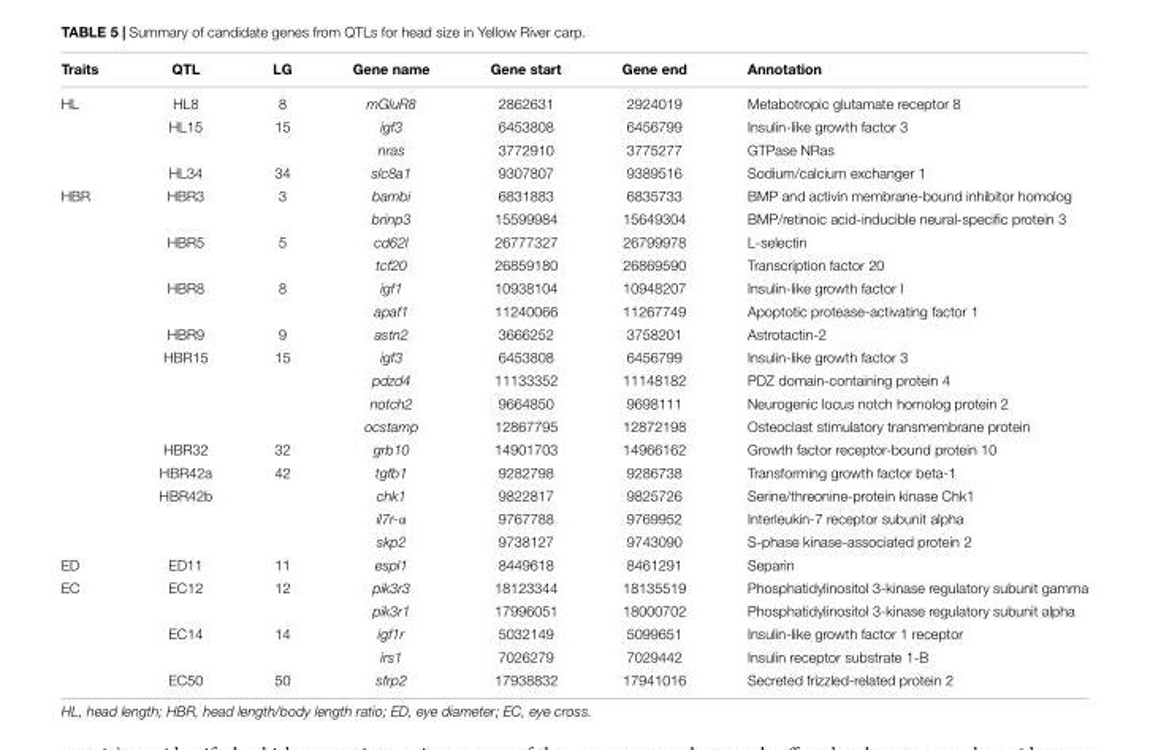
<table><thead><tr><td>Traits</td><td>QTL</td><td>LG</td><td>Gene name</td><td>Gene start</td><td>Gene end</td><td>Annotation</td></tr></thead><tbody><tr><td rowspan="4">HL</td><td>HL8</td><td>8</td><td>mGluR8</td><td>2862631</td><td>2924019</td><td>Metabotropic glutamate receptor 8</td></tr><tr><td>HL15</td><td>15</td><td>igf3</td><td>6453808</td><td>6456799</td><td>Insulin-like growth factor 3</td></tr><tr><td></td><td></td><td>nras</td><td>3772910</td><td>3775277</td><td>GTPase NRas</td></tr><tr><td>HL34</td><td>34</td><td>slc8a1</td><td>9307807</td><td>9389516</td><td>Sodium/calcium exchanger 1</td></tr><tr><td rowspan="16">HBR</td><td>HBR3</td><td>3</td><td>bambi</td><td>6831883</td><td>6835733</td><td>BMP and activin membrane-bound inhibitor homolog</td></tr><tr><td></td><td></td><td>brinp3</td><td>15599984</td><td>15649304</td><td>BMP/retinoic acid-inducible neural-specific protein 3</td></tr><tr><td>HBR5</td><td>5</td><td>cd62l</td><td>26777327</td><td>26799978</td><td>L-selectin</td></tr><tr><td></td><td></td><td>tcf20</td><td>26859180</td><td>26869590</td><td>Transcription factor 20</td></tr><tr><td>HBR8</td><td>8</td><td>igf1</td><td>10938104</td><td>10948207</td><td>Insulin-like growth factor I</td></tr><tr><td></td><td></td><td>apaf1</td><td>11240066</td><td>11267749</td><td>Apoptotic protease-activating factor 1</td></tr><tr><td>HBR9</td><td>9</td><td>astn2</td><td>3666252</td><td>3758201</td><td>Astrotactin-2</td></tr><tr><td>HBR15</td><td>15</td><td>igf3</td><td>6453808</td><td>6456799</td><td>Insulin-like growth factor 3</td></tr><tr><td></td><td></td><td>pdzd4</td><td>11133352</td><td>11148182</td><td>PDZ domain-containing protein 4</td></tr><tr><td></td><td></td><td>notch2</td><td>9664850</td><td>9698111</td><td>Neurogenic locus notch homolog protein 2</td></tr><tr><td></td><td></td><td>ocstamp</td><td>12867795</td><td>12872198</td><td>Osteoclast stimulatory transmembrane protein</td></tr><tr><td>HBR32</td><td>32</td><td>grb10</td><td>14901703</td><td>14966162</td><td>Growth factor receptor-bound protein 10</td></tr><tr><td>HBR42a</td><td>42</td><td>tgfb1</td><td>9282798</td><td>9286738</td><td>Transforming growth factor beta-1</td></tr><tr><td>HBR42b</td><td></td><td>chk1</td><td>9822817</td><td>9825726</td><td>Serine/threonine-protein kinase Chk1</td></tr><tr><td></td><td></td><td>il7r-α</td><td>9767788</td><td>9769952</td><td>Interleukin-7 receptor subunit alpha</td></tr><tr><td></td><td></td><td>skp2</td><td>9738127</td><td>9743090</td><td>S-phase kinase-associated protein 2</td></tr><tr><td>ED</td><td>ED11</td><td>11</td><td>espl1</td><td>8449618</td><td>8461291</td><td>Separin</td></tr><tr><td rowspan="5">EC</td><td>EC12</td><td>12</td><td>pik3r3</td><td>18123344</td><td>18135519</td><td>Phosphatidylinositol 3-kinase regulatory subunit gamma</td></tr><tr><td></td><td></td><td>pik3r1</td><td>17996051</td><td>18000702</td><td>Phosphatidylinositol 3-kinase regulatory subunit alpha</td></tr><tr><td>EC14</td><td>14</td><td>igf1r</td><td>5032149</td><td>5099651</td><td>Insulin-like growth factor 1 receptor</td></tr><tr><td></td><td></td><td>irs1</td><td>7026279</td><td>7029442</td><td>Insulin receptor substrate 1-B</td></tr><tr><td>EC50</td><td>50</td><td>sfrp2</td><td>17938832</td><td>17941016</td><td>Secreted frizzled-related protein 2</td></tr></tbody></table>